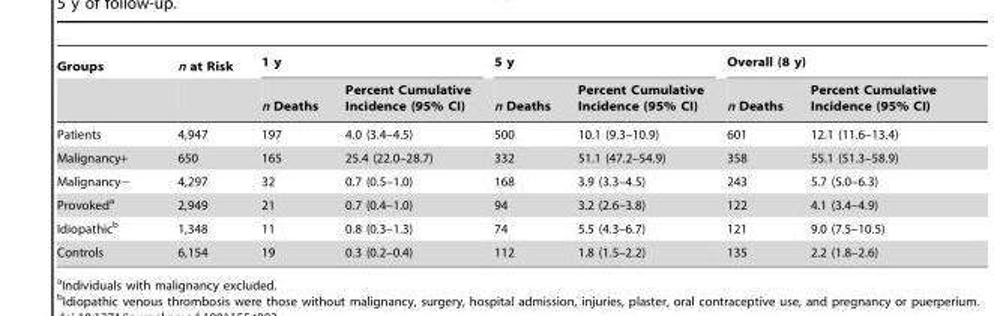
<table><thead><tr><td rowspan="2">Groups</td><td rowspan="2">n at Risk</td><td colspan="2">1 y</td><td colspan="2">5 y</td><td colspan="2">Overall (8 y)</td></tr><tr><td>n Deaths</td><td>Percent Cumulative Incidence (95% CI)</td><td>n Deaths</td><td>Percent Cumulative Incidence (95% CI)</td><td>n Deaths</td><td>Percent Cumulative Incidence (95% CI)</td></tr></thead><tbody><tr><td>Patients</td><td>4,947</td><td>197</td><td>4.0 (3.4–4.5)</td><td>500</td><td>10.1 (9.3–10.9)</td><td>601</td><td>12.1 (11.6–13.4)</td></tr><tr><td>Malignancy+</td><td>650</td><td>165</td><td>25.4 (22.0–28.7)</td><td>332</td><td>51.1 (47.2–54.9)</td><td>358</td><td>55.1 (51.3–58.9)</td></tr><tr><td>Malignancy−</td><td>4,297</td><td>32</td><td>0.7 (0.5–1.0)</td><td>168</td><td>3.9 (3.3–4.5)</td><td>243</td><td>5.7 (5.0–6.3)</td></tr><tr><td>Provoked<sup>a</sup></td><td>2,949</td><td>21</td><td>0.7 (0.4–1.0)</td><td>94</td><td>3.2 (2.6–3.8)</td><td>122</td><td>4.1 (3.4–4.9)</td></tr><tr><td>Idiopathic<sup>b</sup></td><td>1,348</td><td>11</td><td>0.8 (0.3–1.3)</td><td>74</td><td>5.5 (4.3–6.7)</td><td>121</td><td>9.0 (7.5–10.5)</td></tr><tr><td>Controls</td><td>6,154</td><td>19</td><td>0.3 (0.2–0.4)</td><td>112</td><td>1.8 (1.5–2.2)</td><td>135</td><td>2.2 (1.8–2.6)</td></tr></tbody></table>